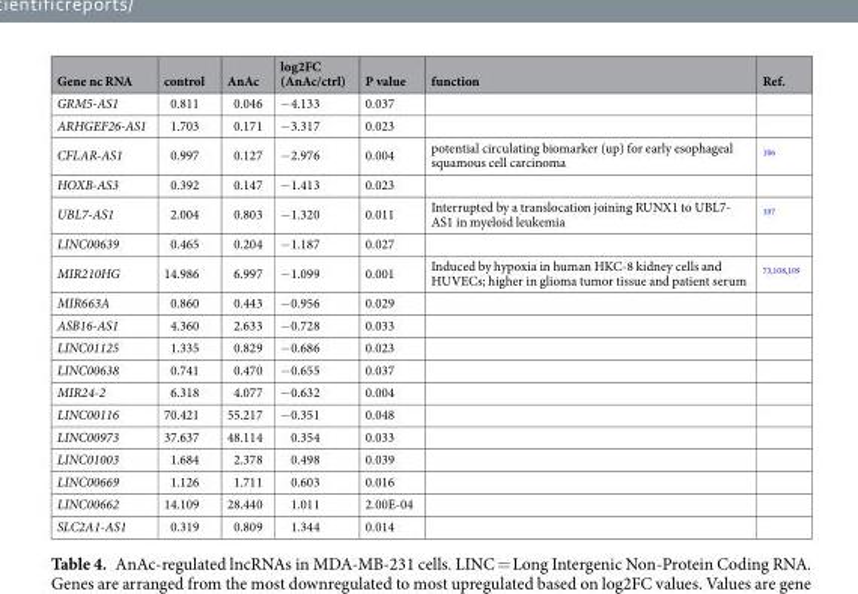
<table><thead><tr><td>Gene nc RNA</td><td>control</td><td>AnAc</td><td>log2FC (AnAc/ctrl)</td><td>P value</td><td>function</td><td>Ref.</td></tr></thead><tbody><tr><td>GRM5-AS1</td><td>0.811</td><td>0.046</td><td>−4.133</td><td>0.037</td><td></td><td></td></tr><tr><td>ARHGEF26-AS1</td><td>1.703</td><td>0.171</td><td>−3.317</td><td>0.023</td><td></td><td></td></tr><tr><td>CFLAR-AS1</td><td>0.997</td><td>0.127</td><td>−2.976</td><td>0.004</td><td>potential circulating biomarker (up) for early esophageal squamous cell carcinoma</td><td><sup>106</sup></td></tr><tr><td>HOXB-AS3</td><td>0.392</td><td>0.147</td><td>−1.413</td><td>0.023</td><td></td><td></td></tr><tr><td>UBL7-AS1</td><td>2.004</td><td>0.803</td><td>−1.320</td><td>0.011</td><td>Interrupted by a translocation joining RUNX1 to UBL7- AS1 in myeloid leukemia</td><td><sup>107</sup></td></tr><tr><td>LINC00639</td><td>0.465</td><td>0.204</td><td>−1.187</td><td>0.027</td><td></td><td></td></tr><tr><td>MIR210HG</td><td>14.986</td><td>6.997</td><td>−1.099</td><td>0.001</td><td>Induced by hypoxia in human HKC-8 kidney cells and HUVECs; higher in glioma tumor tissue and patient serum</td><td><sup>73,108,109</sup></td></tr><tr><td>MIR663A</td><td>0.860</td><td>0.443</td><td>−0.956</td><td>0.029</td><td></td><td></td></tr><tr><td>ASB16-AS1</td><td>4.360</td><td>2.633</td><td>−0.728</td><td>0.033</td><td></td><td></td></tr><tr><td>LINC01125</td><td>1.335</td><td>0.829</td><td>−0.686</td><td>0.023</td><td></td><td></td></tr><tr><td>LINC00638</td><td>0.741</td><td>0.470</td><td>−0.655</td><td>0.037</td><td></td><td></td></tr><tr><td>MIR24-2</td><td>6.318</td><td>4.077</td><td>−0.632</td><td>0.004</td><td></td><td></td></tr><tr><td>LINC00116</td><td>70.421</td><td>55.217</td><td>−0.351</td><td>0.048</td><td></td><td></td></tr><tr><td>LINC00973</td><td>37.637</td><td>48.114</td><td>0.354</td><td>0.033</td><td></td><td></td></tr><tr><td>LINC01003</td><td>1.684</td><td>2.378</td><td>0.498</td><td>0.039</td><td></td><td></td></tr><tr><td>LINC00669</td><td>1.126</td><td>1.711</td><td>0.603</td><td>0.016</td><td></td><td></td></tr><tr><td>LINC00662</td><td>14.109</td><td>28.440</td><td>1.011</td><td>2.00E-04</td><td></td><td></td></tr><tr><td>SLC2A1-AS1</td><td>0.319</td><td>0.809</td><td>1.344</td><td>0.014</td><td></td><td></td></tr></tbody></table>